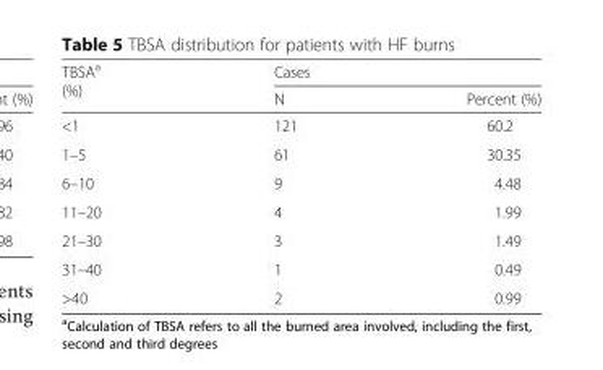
<table><thead><tr><td rowspan="2">TBSA<sup>a</sup> (%)</td><td colspan="2">Cases</td></tr><tr><td>N</td><td>Percent (%)</td></tr></thead><tbody><tr><td>&lt;1</td><td>121</td><td>60.2</td></tr><tr><td>1–5</td><td>61</td><td>30.35</td></tr><tr><td>6–10</td><td>9</td><td>4.48</td></tr><tr><td>11–20</td><td>4</td><td>1.99</td></tr><tr><td>21–30</td><td>3</td><td>1.49</td></tr><tr><td>31–40</td><td>1</td><td>0.49</td></tr><tr><td>&gt;40</td><td>2</td><td>0.99</td></tr></tbody></table>